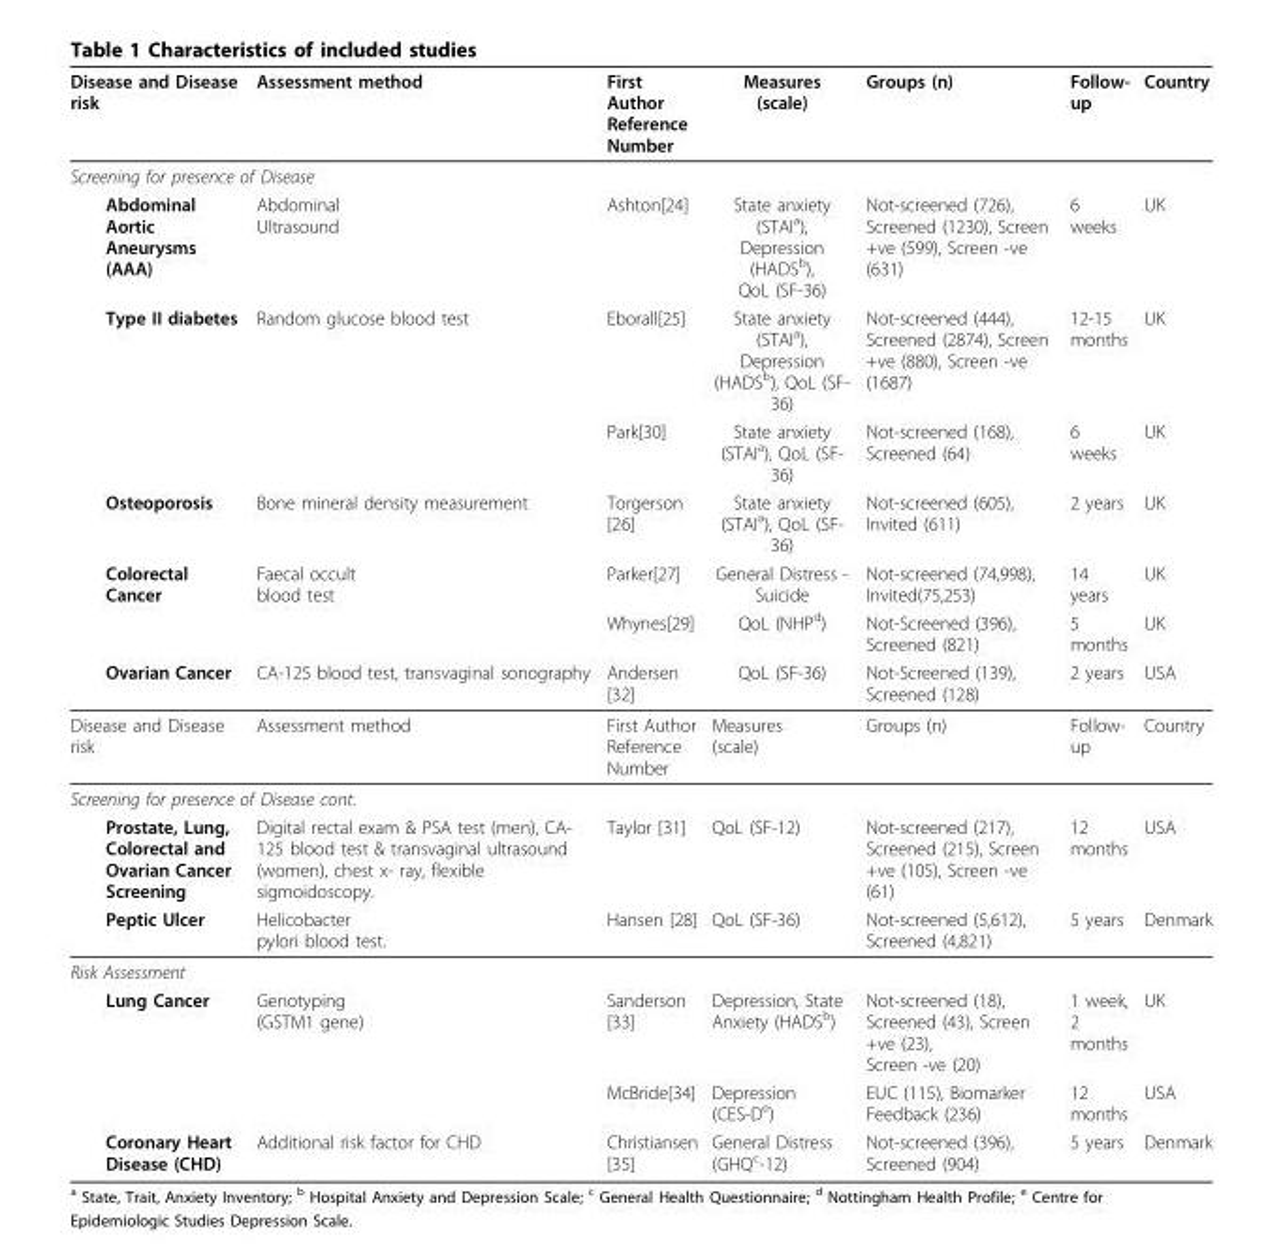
<table><thead><tr><td>Disease and Disease risk</td><td>Assessment method</td><td>First Author Reference Number</td><td>Measures (scale)</td><td>Groups (n)</td><td>Follow- up</td><td>Country</td></tr></thead><tbody><tr><td colspan="7">Screening for presence of Disease</td></tr><tr><td>Abdominal Aortic Aneurysms (AAA)</td><td>Abdominal Ultrasound</td><td>Ashton[24]</td><td>State anxiety (STAI<sup>a</sup>), Depression (HADS<sup>b</sup>), QoL (SF-36)</td><td>Not-screened (726), Screened (1230), Screen +ve (599), Screen -ve (631)</td><td>6 weeks</td><td>UK</td></tr><tr><td rowspan="2">Type II diabetes</td><td>Random glucose blood test</td><td>Eborall[25]</td><td>State anxiety (STAI<sup>a</sup>), Depression (HADS<sup>b</sup>), QoL (SF- 36)</td><td>Not-screened (444), Screened (2874), Screen +ve (880), Screen -ve (1687)</td><td>12-15 months</td><td>UK</td></tr><tr><td></td><td>Park[30]</td><td>State anxiety (STAI<sup>a</sup>), QoL (SF- 36)</td><td>Not-screened (168), Screened (64)</td><td>6 weeks</td><td>UK</td></tr><tr><td>Osteoporosis</td><td>Bone mineral density measurement</td><td>Torgerson [26]</td><td>State anxiety (STAI<sup>a</sup>), QoL (SF- 36)</td><td>Not-screened (605), Invited (611)</td><td>2 years</td><td>UK</td></tr><tr><td rowspan="2">Colorectal Cancer</td><td>Faecal occult blood test</td><td>Parker[27]</td><td>General Distress - Suicide</td><td>Not-screened (74,998), Invited(75,253)</td><td>14 years</td><td>UK</td></tr><tr><td></td><td>Whynes[29]</td><td>QoL (NHP<sup>d</sup>)</td><td>Not-Screened (396), Screened (821)</td><td>5 months</td><td>UK</td></tr><tr><td>Ovarian Cancer</td><td>CA-125 blood test, transvaginal sonography</td><td>Andersen [32]</td><td>QoL (SF-36)</td><td>Not-Screened (139), Screened (128)</td><td>2 years</td><td>USA</td></tr><tr><td>Disease and Disease risk</td><td>Assessment method</td><td>First Author Reference Number</td><td>Measures (scale)</td><td>Groups (n)</td><td>Follow- up</td><td>Country</td></tr><tr><td colspan="7">Screening for presence of Disease cont.</td></tr><tr><td>Prostate, Lung, Colorectal and Ovarian Cancer Screening</td><td>Digital rectal exam &amp; PSA test (men), CA- 125 blood test &amp; transvaginal ultrasound (women), chest x- ray, flexible sigmoidoscopy.</td><td>Taylor [31]</td><td>QoL (SF-12)</td><td>Not-screened (217), Screened (215), Screen +ve (105), Screen -ve (61)</td><td>12 months</td><td>USA</td></tr><tr><td>Peptic Ulcer</td><td>Helicobacter pylori blood test.</td><td>Hansen [28]</td><td>QoL (SF-36)</td><td>Not-screened (5,612), Screened (4,821)</td><td>5 years</td><td>Denmark</td></tr><tr><td colspan="7">Risk Assessment</td></tr><tr><td rowspan="2">Lung Cancer</td><td>Genotyping (GSTM1 gene)</td><td>Sanderson [33]</td><td>Depression, State Anxiety (HADS<sup>b</sup>)</td><td>Not-screened (18), Screened (43), Screen +ve (23), Screen -ve (20)</td><td>1 week, 2 months</td><td>UK</td></tr><tr><td></td><td>McBride[34]</td><td>Depression (CES-D<sup>e</sup>)</td><td>EUC (115), Biomarker Feedback (236)</td><td>12 months</td><td>USA</td></tr><tr><td>Coronary Heart Disease (CHD)</td><td>Additional risk factor for CHD</td><td>Christiansen [35]</td><td>General Distress (GHQ<sup>c</sup>-12)</td><td>Not-screened (396), Screened (904)</td><td>5 years</td><td>Denmark</td></tr></tbody></table>